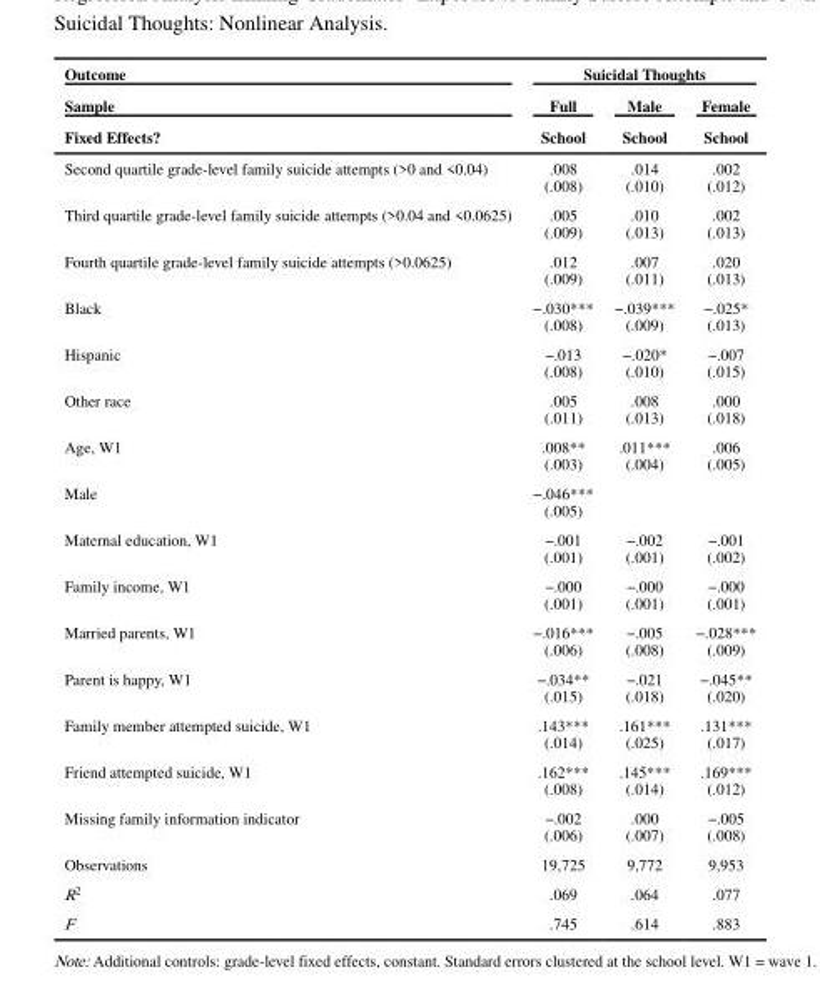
<table><thead><tr><td rowspan="3">Outcome Sample Fixed Effects?</td><td colspan="3">Suicidal Thoughts</td></tr><tr><td rowspan="2">Full School</td><td rowspan="2">Male School</td><td rowspan="2">Female School</td></tr><tr></tr></thead><tbody><tr><td>Second quartile grade-level family suicide attempts (&gt;0 and &lt;0.04)</td><td>.008 (.008)</td><td>.014 (.010)</td><td>.002 (.012)</td></tr><tr><td>Third quartile grade-level family suicide attempts (&gt;0.04 and &lt;0.0625)</td><td>.005 (.009)</td><td>.010 (.013)</td><td>.002 (.013)</td></tr><tr><td>Fourth quartile grade-level family suicide attempts (&gt;0.0625)</td><td>.012 (.009)</td><td>.007 (.011)</td><td>.020 (.013)</td></tr><tr><td>Black</td><td>−.030*** (.008)</td><td>−.039*** (.009)</td><td>−.025* (.013)</td></tr><tr><td>Hispanic</td><td>−.013 (.008)</td><td>−.020* (.010)</td><td>−.007 (.015)</td></tr><tr><td>Other race</td><td>.005 (.011)</td><td>.008 (.013)</td><td>.000 (.018)</td></tr><tr><td>Age, W1</td><td>.008** (.003)</td><td>.011*** (.004)</td><td>.006 (.005)</td></tr><tr><td>Male</td><td>−.046*** (.005)</td><td></td><td></td></tr><tr><td>Maternal education, W1</td><td>−.001 (.001)</td><td>−.002 (.001)</td><td>−.001 (.002)</td></tr><tr><td>Family income, W1</td><td>−.000 (.001)</td><td>−.000 (.001)</td><td>−.000 (.001)</td></tr><tr><td>Married parents, W1</td><td>−.016*** (.006)</td><td>−.005 (.008)</td><td>−.028*** (.009)</td></tr><tr><td>Parent is happy, W1</td><td>−.034** (.015)</td><td>−.021 (.018)</td><td>−.045** (.020)</td></tr><tr><td>Family member attempted suicide, W1</td><td>.143*** (.014)</td><td>.161*** (.025)</td><td>.131*** (.017)</td></tr><tr><td>Friend attempted suicide, W1</td><td>.162*** (.008)</td><td>.145*** (.014)</td><td>.169*** (.012)</td></tr><tr><td>Missing family information indicator</td><td>−.002 (.006)</td><td>.000 (.007)</td><td>−.005 (.008)</td></tr><tr><td>Observations</td><td>19,725</td><td>9,772</td><td>9,953</td></tr><tr><td>R<sup>2</sup></td><td>.069</td><td>.064</td><td>.077</td></tr><tr><td>F</td><td>.745</td><td>.614</td><td>.883</td></tr></tbody></table>